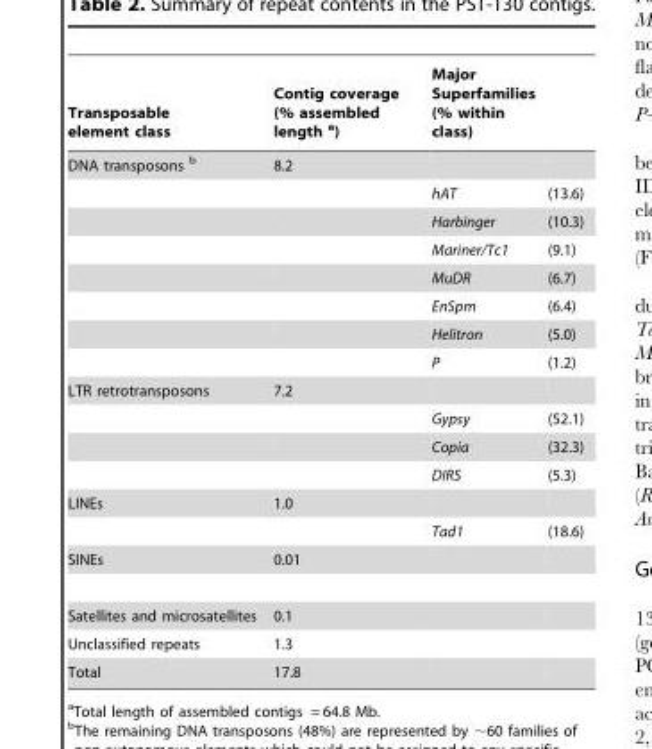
<table><thead><tr><td rowspan="2">Transposable element class DNA transposons b</td><td rowspan="2">Contig coverage (% assembled length a) 8.2</td><td colspan="2">Major Superfamilies (% within class)</td></tr><tr><td></td><td></td></tr></thead><tbody><tr><td></td><td></td><td>hAT</td><td>(13.6)</td></tr><tr><td></td><td></td><td>Harbinger</td><td>(10.3)</td></tr><tr><td></td><td></td><td>Mariner/Tc1</td><td>(9.1)</td></tr><tr><td></td><td></td><td>MuDR</td><td>(6.7)</td></tr><tr><td></td><td></td><td>EnSpm</td><td>(6.4)</td></tr><tr><td></td><td></td><td>Helitron</td><td>(5.0)</td></tr><tr><td></td><td></td><td>P</td><td>(1.2)</td></tr><tr><td rowspan="4">LTR retrotransposons</td><td>7.2</td><td></td><td></td></tr><tr><td></td><td>Gypsy</td><td>(52.1)</td></tr><tr><td></td><td>Copia</td><td>(32.3)</td></tr><tr><td></td><td>DIRS</td><td>(5.3)</td></tr><tr><td rowspan="2">LINEs</td><td>1.0</td><td></td><td></td></tr><tr><td></td><td>Tad1</td><td>(18.6)</td></tr><tr><td>SINEs</td><td>0.01</td><td></td><td></td></tr><tr><td>Satellites and microsatellites</td><td>0.1</td><td></td><td></td></tr><tr><td>Unclassified repeats</td><td>1.3</td><td></td><td></td></tr><tr><td>Total</td><td>17.8</td><td></td><td></td></tr></tbody></table>